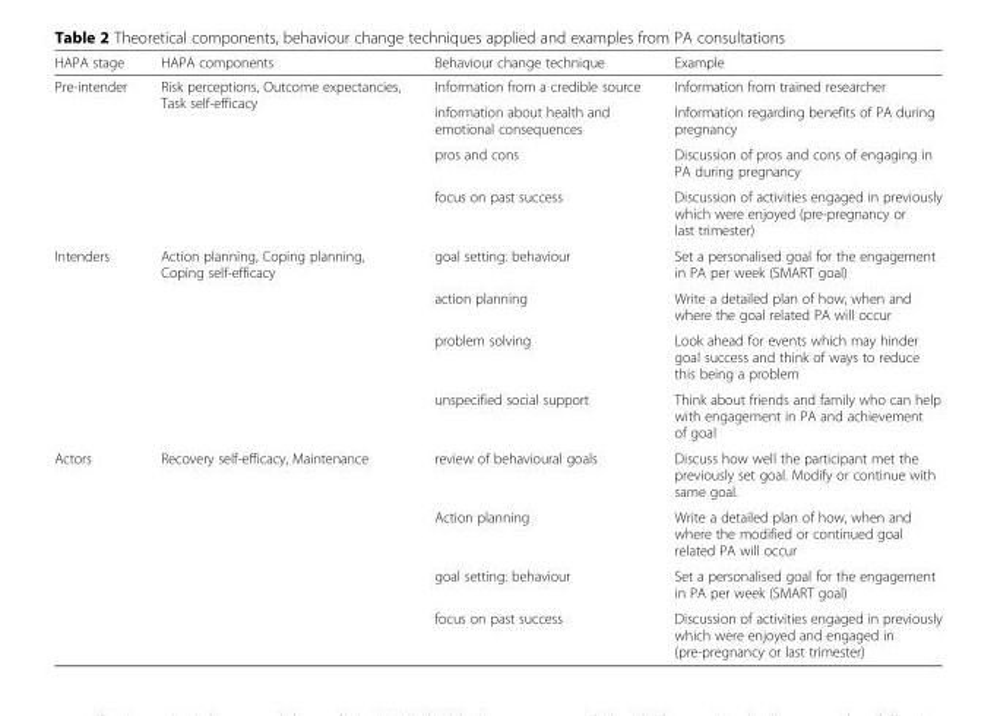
<table><thead><tr><td>HAPA stage</td><td>HAPA components</td><td>Behaviour change technique</td><td>Example</td></tr></thead><tbody><tr><td rowspan="4">Pre-intender</td><td rowspan="4">Risk perceptions, Outcome expectancies, Task self-efficacy</td><td>Information from a credible source</td><td>Information from trained researcher</td></tr><tr><td>information about health and emotional consequences</td><td>Information regarding benefits of PA during pregnancy</td></tr><tr><td>pros and cons</td><td>Discussion of pros and cons of engaging in PA during pregnancy</td></tr><tr><td>focus on past success</td><td>Discussion of activities engaged in previously which were enjoyed (pre-pregnancy or last trimester)</td></tr><tr><td rowspan="4">Intenders</td><td rowspan="4">Action planning, Coping planning, Coping self-efficacy</td><td>goal setting: behaviour</td><td>Set a personalised goal for the engagement in PA per week (SMART goal)</td></tr><tr><td>action planning</td><td>Write a detailed plan of how, when and where the goal related PA will occur</td></tr><tr><td>problem solving</td><td>Look ahead for events which may hinder goal success and think of ways to reduce this being a problem</td></tr><tr><td>unspecified social support</td><td>Think about friends and family who can help with engagement in PA and achievement of goal</td></tr><tr><td rowspan="4">Actors</td><td rowspan="4">Recovery self-efficacy, Maintenance</td><td>review of behavioural goals</td><td>Discuss how well the participant met the previously set goal. Modify or continue with same goal.</td></tr><tr><td>Action planning</td><td>Write a detailed plan of how, when and where the modified or continued goal related PA will occur</td></tr><tr><td>goal setting: behaviour</td><td>Set a personalised goal for the engagement in PA per week (SMART goal)</td></tr><tr><td>focus on past success</td><td>Discussion of activities engaged in previously which were enjoyed and engaged in (pre-pregnancy or last trimester)</td></tr></tbody></table>